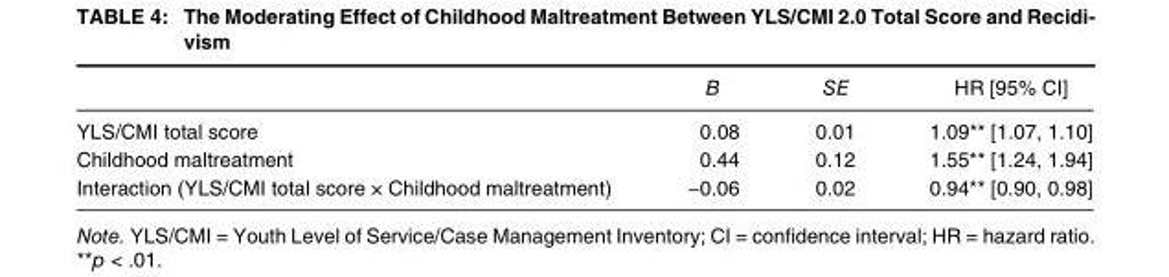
<table><thead><tr><td></td><td>B</td><td>SE</td><td>HR [95% CI]</td></tr></thead><tbody><tr><td>YLS/CMI total score</td><td>0.08</td><td>0.01</td><td>1.09** [1.07, 1.10]</td></tr><tr><td>Childhood maltreatment</td><td>0.44</td><td>0.12</td><td>1.55** [1.24, 1.94]</td></tr><tr><td>Interaction (YLS/CMI total score × Childhood maltreatment)</td><td>−0.06</td><td>0.02</td><td>0.94** [0.90, 0.98]</td></tr></tbody></table>